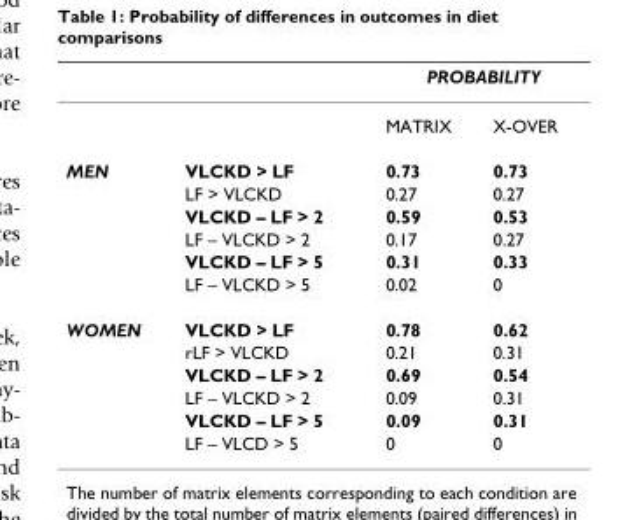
<table><thead><tr><td rowspan="2"></td><td rowspan="2"></td><td colspan="2">PROBABILITY</td></tr><tr><td>MATRIX</td><td>X-OVER</td></tr></thead><tbody><tr><td rowspan="6">MEN</td><td>VLCKD &gt; LF</td><td>0.73</td><td>0.73</td></tr><tr><td>LF &gt; VLCKD</td><td>0.27</td><td>0.27</td></tr><tr><td>VLCKD – LF &gt; 2</td><td>0.59</td><td>0.53</td></tr><tr><td>LF – VLCKD &gt; 2</td><td>0.17</td><td>0.27</td></tr><tr><td>VLCKD – LF &gt; 5</td><td>0.31</td><td>0.33</td></tr><tr><td>LF – VLCKD &gt; 5</td><td>0.02</td><td>0</td></tr><tr><td rowspan="6">WOMEN</td><td>VLCKD &gt; LF</td><td>0.78</td><td>0.62</td></tr><tr><td>rLF &gt; VLCKD</td><td>0.21</td><td>0.31</td></tr><tr><td>VLCKD – LF &gt; 2</td><td>0.69</td><td>0.54</td></tr><tr><td>LF – VLCKD &gt; 2</td><td>0.09</td><td>0.31</td></tr><tr><td>VLCKD – LF &gt; 5</td><td>0.09</td><td>0.31</td></tr><tr><td>LF – VLCD &gt; 5</td><td>0</td><td>0</td></tr></tbody></table>